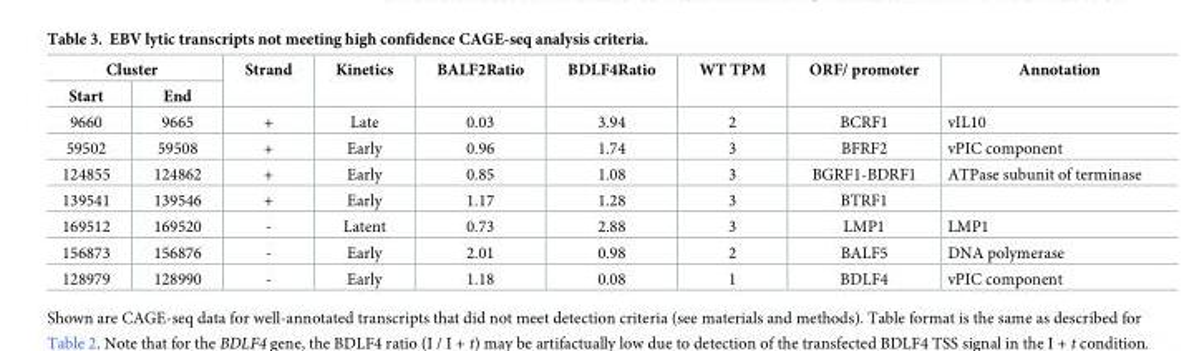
<table><thead><tr><td colspan="2">Cluster</td><td rowspan="2">Strand</td><td rowspan="2">Kinetics</td><td rowspan="2">BALF2Ratio</td><td rowspan="2">BDLF4Ratio</td><td rowspan="2">WT TPM</td><td rowspan="2">ORF/ promoter</td><td rowspan="2">Annotation</td></tr><tr><td>Start</td><td>End</td></tr></thead><tbody><tr><td>9660</td><td>9665</td><td>+</td><td>Late</td><td>0.03</td><td>3.94</td><td>2</td><td>BCRF1</td><td>vIL10</td></tr><tr><td>59502</td><td>59508</td><td>+</td><td>Early</td><td>0.96</td><td>1.74</td><td>3</td><td>BFRF2</td><td>vPIC component</td></tr><tr><td>124855</td><td>124862</td><td>+</td><td>Early</td><td>0.85</td><td>1.08</td><td>3</td><td>BGRF1-BDRF1</td><td>ATPase subunit of terminase</td></tr><tr><td>139541</td><td>139546</td><td>+</td><td>Early</td><td>1.17</td><td>1.28</td><td>3</td><td>BTRF1</td><td></td></tr><tr><td>169512</td><td>169520</td><td>-</td><td>Latent</td><td>0.73</td><td>2.88</td><td>3</td><td>LMP1</td><td>LMP1</td></tr><tr><td>156873</td><td>156876</td><td>-</td><td>Early</td><td>2.01</td><td>0.98</td><td>2</td><td>BALF5</td><td>DNA polymerase</td></tr><tr><td>128979</td><td>128990</td><td>-</td><td>Early</td><td>1.18</td><td>0.08</td><td>1</td><td>BDLF4</td><td>vPIC component</td></tr></tbody></table>